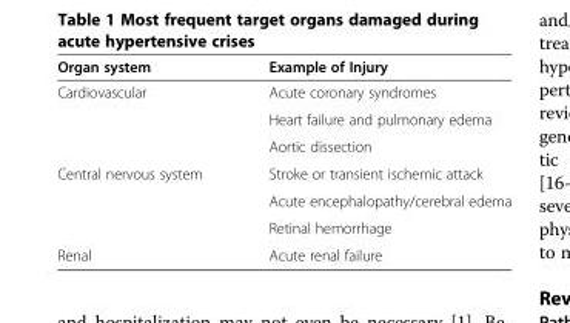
<table><thead><tr><td>Organ system</td><td>Example of Injury</td></tr></thead><tbody><tr><td rowspan="3">Cardiovascular</td><td>Acute coronary syndromes</td></tr><tr><td>Heart failure and pulmonary edema</td></tr><tr><td>Aortic dissection</td></tr><tr><td rowspan="3">Central nervous system</td><td>Stroke or transient ischemic attack</td></tr><tr><td>Acute encephalopathy/cerebral edema</td></tr><tr><td>Retinal hemorrhage</td></tr><tr><td>Renal</td><td>Acute renal failure</td></tr></tbody></table>